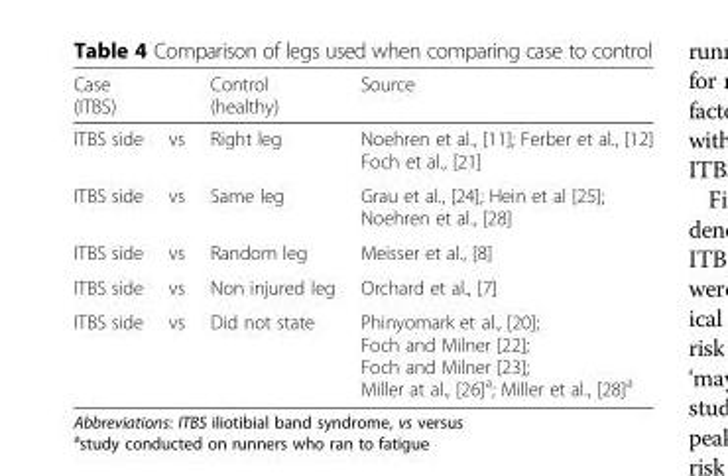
<table><thead><tr><td>Case (ITBS)</td><td></td><td>Control (healthy)</td><td>Source</td></tr></thead><tbody><tr><td>ITBS side</td><td>vs</td><td>Right leg</td><td>Noehren et al., [11]; Ferber et al., [12] Foch et al., [21]</td></tr><tr><td>ITBS side</td><td>vs</td><td>Same leg</td><td>Grau et al., [24]; Hein et al [25]; Noehren et al., [28]</td></tr><tr><td>ITBS side</td><td>vs</td><td>Random leg</td><td>Meisser et al., [8]</td></tr><tr><td>ITBS side</td><td>vs</td><td>Non injured leg</td><td>Orchard et al., [7]</td></tr><tr><td>ITBS side</td><td>vs</td><td>Did not state</td><td>Phinyomark et al., [20]; Foch and Milner [22]; Foch and Milner [23]; Miller at al., [26]<sup>a</sup>; Miller et al., [28]<sup>a</sup></td></tr></tbody></table>